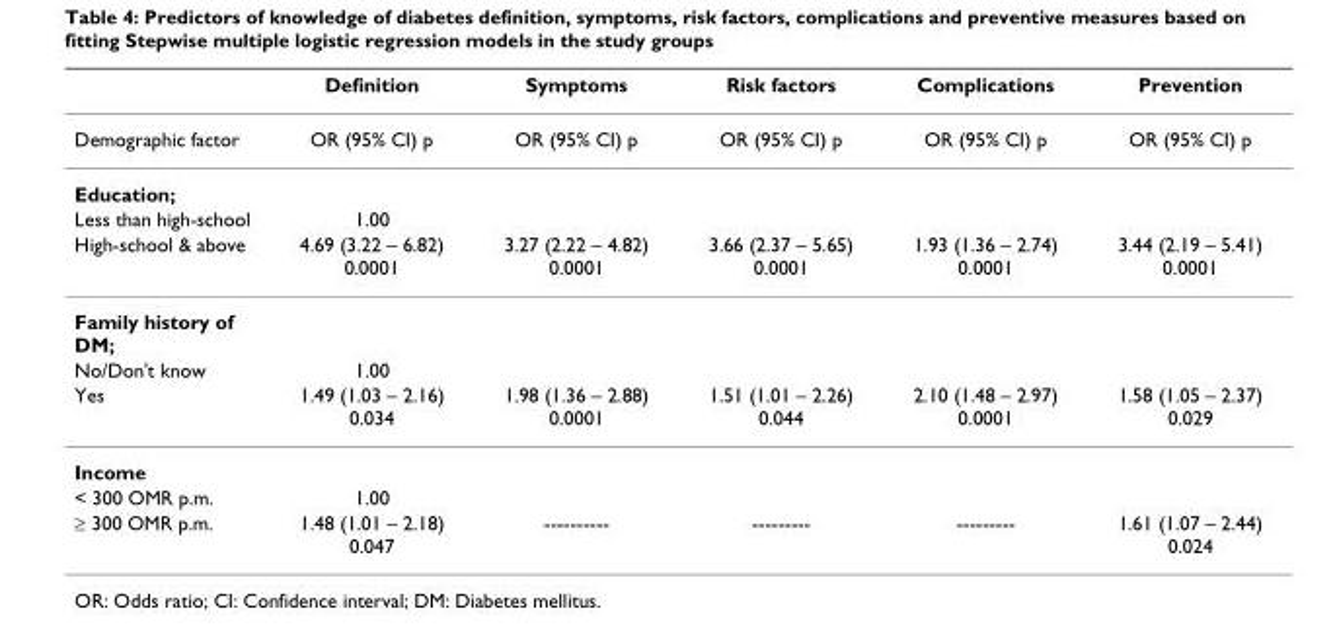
<table><thead><tr><td></td><td>Definition</td><td>Symptoms</td><td>Risk factors</td><td>Complications</td><td>Prevention</td></tr></thead><tbody><tr><td>Demographic factor</td><td>OR (95% CI) p</td><td>OR (95% CI) p</td><td>OR (95% CI) p</td><td>OR (95% CI) p</td><td>OR (95% CI) p</td></tr><tr><td colspan="6">Education;</td></tr><tr><td>Less than high-school</td><td>1.00</td><td></td><td></td><td></td><td></td></tr><tr><td>High-school &amp; above</td><td>4.69 (3.22 – 6.82) 0.0001</td><td>3.27 (2.22 – 4.82) 0.0001</td><td>3.66 (2.37 – 5.65) 0.0001</td><td>1.93 (1.36 – 2.74) 0.0001</td><td>3.44 (2.19 – 5.41) 0.0001</td></tr><tr><td colspan="6">Family history of DM;</td></tr><tr><td>No/Don&#x27;t know</td><td>1.00</td><td></td><td></td><td></td><td></td></tr><tr><td>Yes</td><td>1.49 (1.03 – 2.16) 0.034</td><td>1.98 (1.36 – 2.88) 0.0001</td><td>1.51 (1.01 – 2.26) 0.044</td><td>2.10 (1.48 – 2.97) 0.0001</td><td>1.58 (1.05 – 2.37) 0.029</td></tr><tr><td colspan="6">Income</td></tr><tr><td>&lt; 300 OMR p.m.</td><td>1.00</td><td></td><td></td><td></td><td></td></tr><tr><td>≥ 300 OMR p.m.</td><td>1.48 (1.01 – 2.18) 0.047</td><td>----------</td><td>---------</td><td>---------</td><td>1.61 (1.07 – 2.44) 0.024</td></tr></tbody></table>